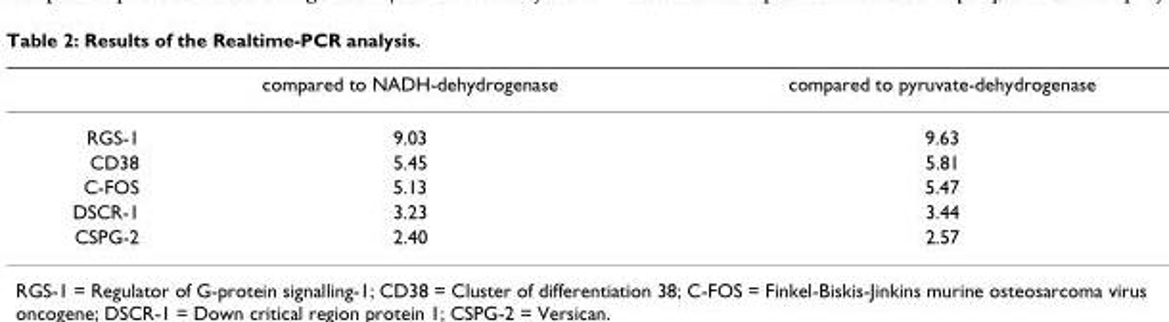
<table><thead><tr><td></td><td>compared to NADH-dehydrogenase</td><td>compared to pyruvate-dehydrogenase</td></tr></thead><tbody><tr><td>RGS-1</td><td>9.03</td><td>9.63</td></tr><tr><td>CD38</td><td>5.45</td><td>5.81</td></tr><tr><td>C-FOS</td><td>5.13</td><td>5.47</td></tr><tr><td>DSCR-1</td><td>3.23</td><td>3.44</td></tr><tr><td>CSPG-2</td><td>2.40</td><td>2.57</td></tr></tbody></table>